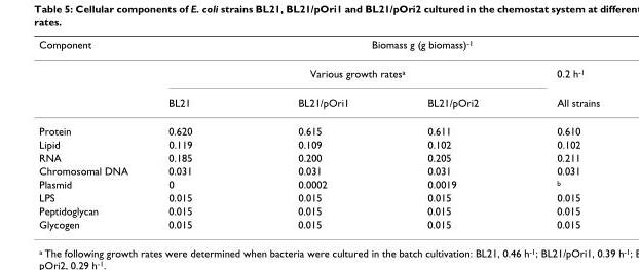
<table><thead><tr><td rowspan="3">Component</td><td colspan="4">Biomass g (g biomass)-1</td></tr><tr><td colspan="3">Various growth ratesa</td><td rowspan="2">0.2 h-1 All strains</td></tr><tr><td>BL21</td><td>BL21/pOri1</td><td>BL21/pOri2</td></tr></thead><tbody><tr><td>Protein</td><td>0.620</td><td>0.615</td><td>0.611</td><td>0.610</td></tr><tr><td>Lipid</td><td>0.119</td><td>0.109</td><td>0.102</td><td>0.102</td></tr><tr><td>RNA</td><td>0.185</td><td>0.200</td><td>0.205</td><td>0.211</td></tr><tr><td>Chromosomal DNA</td><td>0.031</td><td>0.031</td><td>0.031</td><td>0.031</td></tr><tr><td>Plasmid</td><td>0</td><td>0.0002</td><td>0.0019</td><td><sup>b</sup></td></tr><tr><td>LPS</td><td>0.015</td><td>0.015</td><td>0.015</td><td>0.015</td></tr><tr><td>Peptidoglycan</td><td>0.015</td><td>0.015</td><td>0.015</td><td>0.015</td></tr><tr><td>Glycogen</td><td>0.015</td><td>0.015</td><td>0.015</td><td>0.015</td></tr></tbody></table>